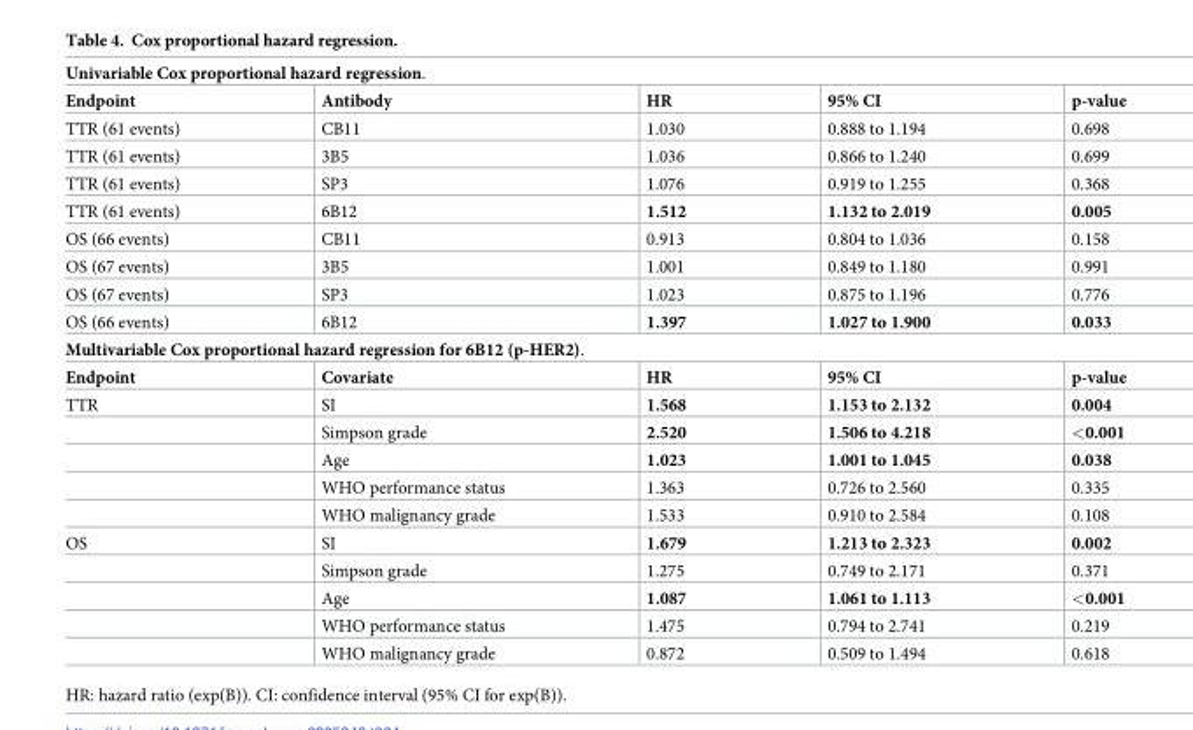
<table><tbody><tr><td colspan="5">Univariable Cox proportional hazard regression.</td></tr><tr><td>Endpoint</td><td>Antibody</td><td>HR</td><td>95% CI</td><td>p-value</td></tr><tr><td>TTR (61 events)</td><td>CB11</td><td>1.030</td><td>0.888 to 1.194</td><td>0.698</td></tr><tr><td>TTR (61 events)</td><td>3B5</td><td>1.036</td><td>0.866 to 1.240</td><td>0.699</td></tr><tr><td>TTR (61 events)</td><td>SP3</td><td>1.076</td><td>0.919 to 1.255</td><td>0.368</td></tr><tr><td>TTR (61 events)</td><td>6B12</td><td>1.512</td><td>1.132 to 2.019</td><td>0.005</td></tr><tr><td>OS (66 events)</td><td>CB11</td><td>0.913</td><td>0.804 to 1.036</td><td>0.158</td></tr><tr><td>OS (67 events)</td><td>3B5</td><td>1.001</td><td>0.849 to 1.180</td><td>0.991</td></tr><tr><td>OS (67 events)</td><td>SP3</td><td>1.023</td><td>0.875 to 1.196</td><td>0.776</td></tr><tr><td>OS (66 events)</td><td>6B12</td><td>1.397</td><td>1.027 to 1.900</td><td>0.033</td></tr><tr><td colspan="5">Multivariable Cox proportional hazard regression for 6B12 (p-HER2).</td></tr><tr><td>Endpoint</td><td>Covariate</td><td>HR</td><td>95% CI</td><td>p-value</td></tr><tr><td rowspan="5">TTR</td><td>SI</td><td>1.568</td><td>1.153 to 2.132</td><td>0.004</td></tr><tr><td>Simpson grade</td><td>2.520</td><td>1.506 to 4.218</td><td>&lt;0.001</td></tr><tr><td>Age</td><td>1.023</td><td>1.001 to 1.045</td><td>0.038</td></tr><tr><td>WHO performance status</td><td>1.363</td><td>0.726 to 2.560</td><td>0.335</td></tr><tr><td>WHO malignancy grade</td><td>1.533</td><td>0.910 to 2.584</td><td>0.108</td></tr><tr><td rowspan="5">OS</td><td>SI</td><td>1.679</td><td>1.213 to 2.323</td><td>0.002</td></tr><tr><td>Simpson grade</td><td>1.275</td><td>0.749 to 2.171</td><td>0.371</td></tr><tr><td>Age</td><td>1.087</td><td>1.061 to 1.113</td><td>&lt;0.001</td></tr><tr><td>WHO performance status</td><td>1.475</td><td>0.794 to 2.741</td><td>0.219</td></tr><tr><td>WHO malignancy grade</td><td>0.872</td><td>0.509 to 1.494</td><td>0.618</td></tr></tbody></table>